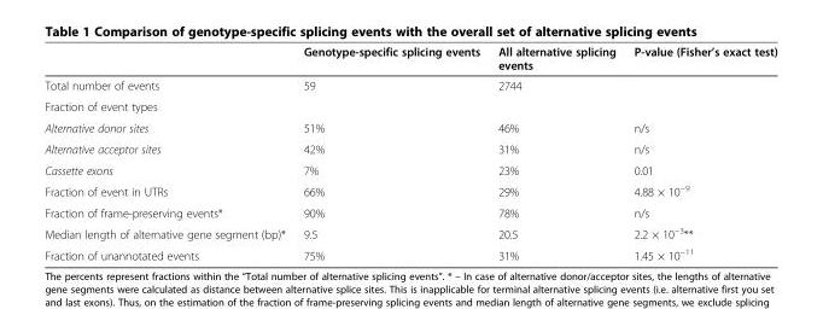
<table><thead><tr><td></td><td>Genotype-specific splicing events</td><td>All alternative splicing events</td><td>P-value (Fisher’s exact test)</td></tr></thead><tbody><tr><td>Total number of events</td><td>59</td><td>2744</td><td></td></tr><tr><td colspan="4">Fraction of event types</td></tr><tr><td>Alternative donor sites</td><td>51%</td><td>46%</td><td>n/s</td></tr><tr><td>Alternative acceptor sites</td><td>42%</td><td>31%</td><td>n/s</td></tr><tr><td>Cassette exons</td><td>7%</td><td>23%</td><td>0.01</td></tr><tr><td>Fraction of event in UTRs</td><td>66%</td><td>29%</td><td>4.88 × 10<sup>−9</sup></td></tr><tr><td>Fraction of frame-preserving events*</td><td>90%</td><td>78%</td><td>n/s</td></tr><tr><td>Median length of alternative gene segment (bp)*</td><td>9.5</td><td>20.5</td><td>2.2 × 10<sup>−3</sup>**</td></tr><tr><td>Fraction of unannotated events</td><td>75%</td><td>31%</td><td>1.45 × 10<sup>−11</sup></td></tr></tbody></table>